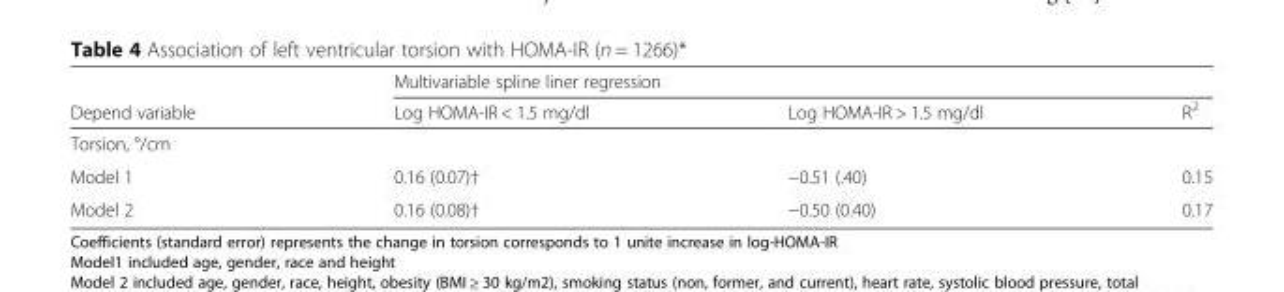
<table><thead><tr><td rowspan="2">Depend variable</td><td colspan="3">Multivariable spline liner regression</td></tr><tr><td>Log HOMA-IR &lt; 1.5 mg/dl</td><td>Log HOMA-IR &gt; 1.5 mg/dl</td><td>R<sup>2</sup></td></tr></thead><tbody><tr><td colspan="4">Torsion, °/cm</td></tr><tr><td>Model 1</td><td>0.16 (0.07)†</td><td>−0.51 (.40)</td><td>0.15</td></tr><tr><td>Model 2</td><td>0.16 (0.08)†</td><td>−0.50 (0.40)</td><td>0.17</td></tr></tbody></table>